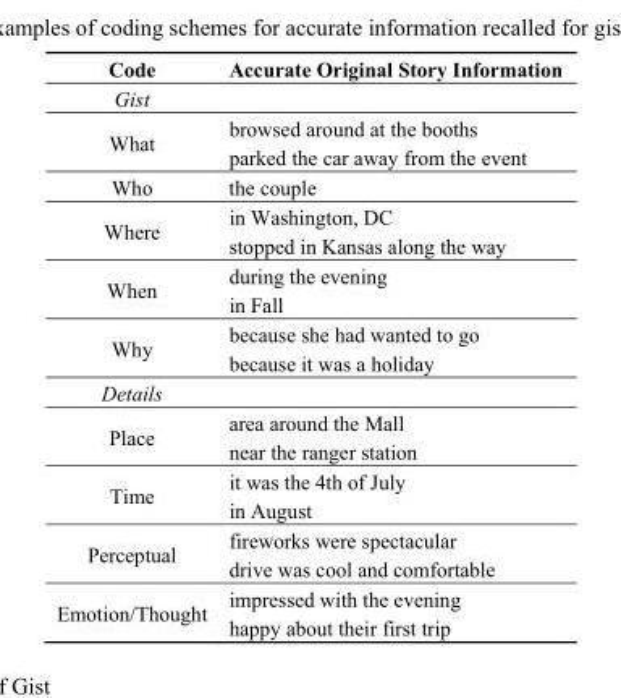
<table><thead><tr><td>Code</td><td>Accurate Original Story Information</td></tr></thead><tbody><tr><td colspan="2">Gist</td></tr><tr><td>What</td><td>browsed around at the booths parked the car away from the event</td></tr><tr><td>Who</td><td>the couple</td></tr><tr><td>Where</td><td>in Washington, DC stopped in Kansas along the way</td></tr><tr><td>When</td><td>during the evening in Fall</td></tr><tr><td>Why</td><td>because she had wanted to go because it was a holiday</td></tr><tr><td colspan="2">Details</td></tr><tr><td>Place</td><td>area around the Mall near the ranger station</td></tr><tr><td>Time</td><td>it was the 4th of July in August</td></tr><tr><td>Perceptual</td><td>fireworks were spectacular drive was cool and comfortable</td></tr><tr><td>Emotion/Thought</td><td>impressed with the evening happy about their first trip</td></tr></tbody></table>